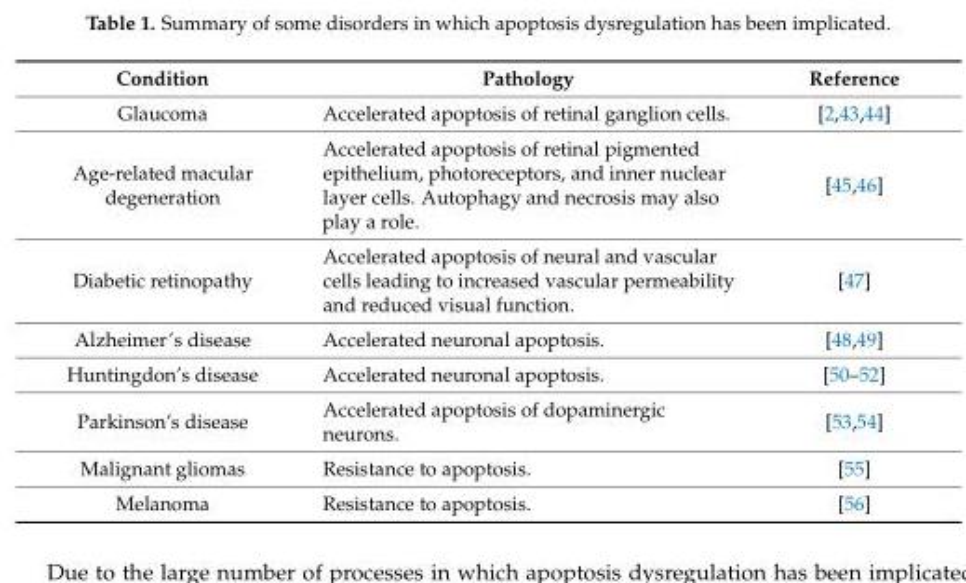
<table><thead><tr><td>Condition</td><td>Pathology</td><td>Reference</td></tr></thead><tbody><tr><td>Glaucoma</td><td>Accelerated apoptosis of retinal ganglion cells.</td><td>[2,43,44]</td></tr><tr><td>Age-related macular degeneration</td><td>Accelerated apoptosis of retinal pigmented epithelium, photoreceptors, and inner nuclear layer cells. Autophagy and necrosis may also play a role.</td><td>[45,46]</td></tr><tr><td>Diabetic retinopathy</td><td>Accelerated apoptosis of neural and vascular cells leading to increased vascular permeability and reduced visual function.</td><td>[47]</td></tr><tr><td>Alzheimer’s disease</td><td>Accelerated neuronal apoptosis.</td><td>[48,49]</td></tr><tr><td>Huntingdon’s disease</td><td>Accelerated neuronal apoptosis.</td><td>[50–52]</td></tr><tr><td>Parkinson’s disease</td><td>Accelerated apoptosis of dopaminergic neurons.</td><td>[53,54]</td></tr><tr><td>Malignant gliomas</td><td>Resistance to apoptosis.</td><td>[55]</td></tr><tr><td>Melanoma</td><td>Resistance to apoptosis.</td><td>[56]</td></tr></tbody></table>